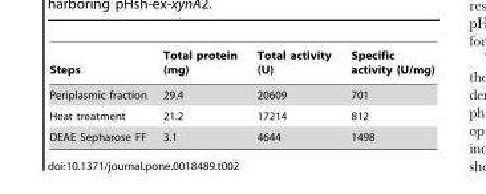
<table><thead><tr><td>Steps</td><td>Total protein (mg)</td><td>Total activity (U)</td><td>Specific activity (U/mg)</td></tr></thead><tbody><tr><td>Periplasmic fraction</td><td>29.4</td><td>20609</td><td>701</td></tr><tr><td>Heat treatment</td><td>21.2</td><td>17214</td><td>812</td></tr><tr><td>DEAE Sepharose FF</td><td>3.1</td><td>4644</td><td>1498</td></tr></tbody></table>